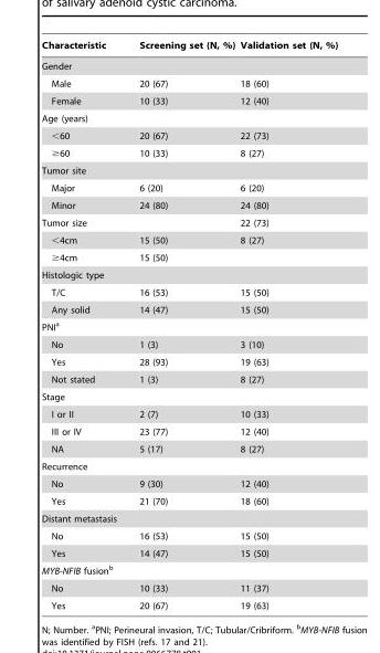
<table><thead><tr><td>Characteristic</td><td>Screening set (N, %)</td><td>Validation set (N, %)</td></tr></thead><tbody><tr><td colspan="3">Gender</td></tr><tr><td>Male</td><td>20 (67)</td><td>18 (60)</td></tr><tr><td>Female</td><td>10 (33)</td><td>12 (40)</td></tr><tr><td colspan="3">Age (years)</td></tr><tr><td>&lt;60</td><td>20 (67)</td><td>22 (73)</td></tr><tr><td>≥60</td><td>10 (33)</td><td>8 (27)</td></tr><tr><td colspan="3">Tumor site</td></tr><tr><td>Major</td><td>6 (20)</td><td>6 (20)</td></tr><tr><td>Minor</td><td>24 (80)</td><td>24 (80)</td></tr><tr><td>Tumor size</td><td></td><td>22 (73)</td></tr><tr><td>&lt;4cm</td><td>15 (50)</td><td>8 (27)</td></tr><tr><td>≥4cm</td><td>15 (50)</td><td></td></tr><tr><td colspan="3">Histologic type</td></tr><tr><td>T/C</td><td>16 (53)</td><td>15 (50)</td></tr><tr><td>Any solid</td><td>14 (47)</td><td>15 (50)</td></tr><tr><td colspan="3">PNI<sup>a</sup></td></tr><tr><td>No</td><td>1 (3)</td><td>3 (10)</td></tr><tr><td>Yes</td><td>28 (93)</td><td>19 (63)</td></tr><tr><td>Not stated</td><td>1 (3)</td><td>8 (27)</td></tr><tr><td colspan="3">Stage</td></tr><tr><td>I or II</td><td>2 (7)</td><td>10 (33)</td></tr><tr><td>III or IV</td><td>23 (77)</td><td>12 (40)</td></tr><tr><td>NA</td><td>5 (17)</td><td>8 (27)</td></tr><tr><td colspan="3">Recurrence</td></tr><tr><td>No</td><td>9 (30)</td><td>12 (40)</td></tr><tr><td>Yes</td><td>21 (70)</td><td>18 (60)</td></tr><tr><td colspan="3">Distant metastasis</td></tr><tr><td>No</td><td>16 (53)</td><td>15 (50)</td></tr><tr><td>Yes</td><td>14 (47)</td><td>15 (50)</td></tr><tr><td colspan="3">MYB-NFIB fusion<sup>b</sup></td></tr><tr><td>No</td><td>10 (33)</td><td>11 (37)</td></tr><tr><td>Yes</td><td>20 (67)</td><td>19 (63)</td></tr></tbody></table>